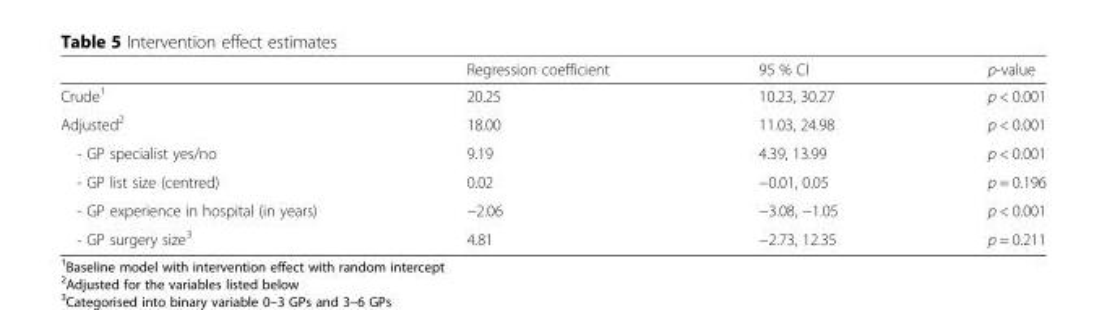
<table><thead><tr><td></td><td>Regression coefficient</td><td>95 % CI</td><td>p-value</td></tr></thead><tbody><tr><td>Crude<sup>1</sup></td><td>20.25</td><td>10.23, 30.27</td><td>p &lt; 0.001</td></tr><tr><td>Adjusted<sup>2</sup></td><td>18.00</td><td>11.03, 24.98</td><td>p &lt; 0.001</td></tr><tr><td>- GP specialist yes/no</td><td>9.19</td><td>4.39, 13.99</td><td>p &lt; 0.001</td></tr><tr><td>- GP list size (centred)</td><td>0.02</td><td>−0.01, 0.05</td><td>p = 0.196</td></tr><tr><td>- GP experience in hospital (in years)</td><td>−2.06</td><td>−3.08, −1.05</td><td>p &lt; 0.001</td></tr><tr><td>- GP surgery size<sup>3</sup></td><td>4.81</td><td>−2.73, 12.35</td><td>p = 0.211</td></tr></tbody></table>